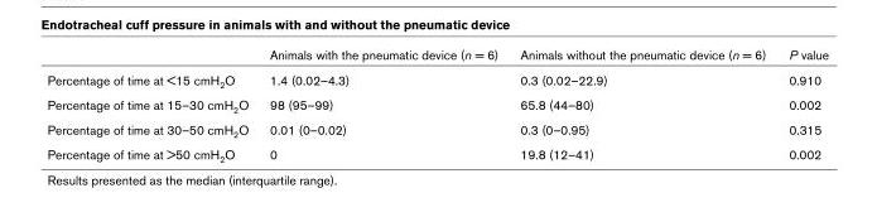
<table><thead><tr><td></td><td>Animals with the pneumatic device (n = 6)</td><td>Animals without the pneumatic device (n = 6)</td><td>P value</td></tr></thead><tbody><tr><td>Percentage of time at &lt;15 cmH<sub>2</sub>O</td><td>1.4 (0.02–4.3)</td><td>0.3 (0.02–22.9)</td><td>0.910</td></tr><tr><td>Percentage of time at 15–30 cmH<sub>2</sub>O</td><td>98 (95–99)</td><td>65.8 (44–80)</td><td>0.002</td></tr><tr><td>Percentage of time at 30–50 cmH<sub>2</sub>O</td><td>0.01 (0–0.02)</td><td>0.3 (0–0.95)</td><td>0.315</td></tr><tr><td>Percentage of time at &gt;50 cmH<sub>2</sub>O</td><td>0</td><td>19.8 (12–41)</td><td>0.002</td></tr></tbody></table>